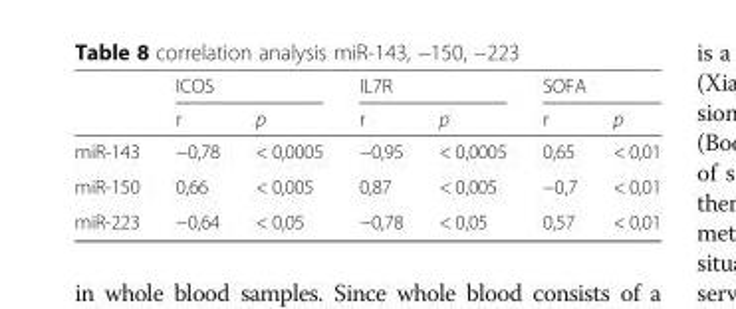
<table><thead><tr><td rowspan="2"></td><td colspan="2">ICOS</td><td colspan="2">IL7R</td><td colspan="2">SOFA</td></tr><tr><td>r</td><td>p</td><td>r</td><td>p</td><td>r</td><td>p</td></tr></thead><tbody><tr><td>miR-143</td><td>−0,78</td><td>&lt; 0,0005</td><td>−0,95</td><td>&lt; 0,0005</td><td>0,65</td><td>&lt; 0,01</td></tr><tr><td>miR-150</td><td>0,66</td><td>&lt; 0,005</td><td>0,87</td><td>&lt; 0,005</td><td>−0,7</td><td>&lt; 0,01</td></tr><tr><td>miR-223</td><td>−0,64</td><td>&lt; 0,05</td><td>−0,78</td><td>&lt; 0,05</td><td>0,57</td><td>&lt; 0,01</td></tr></tbody></table>